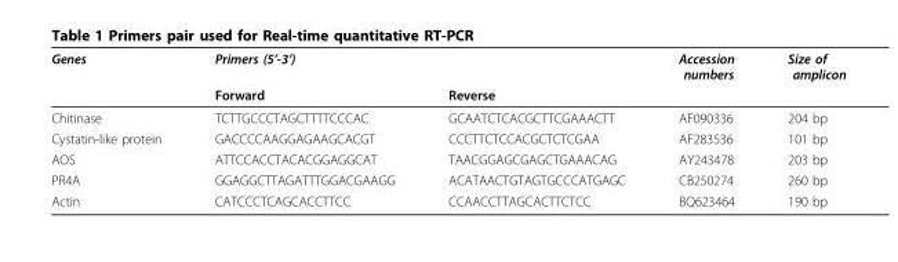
<table><thead><tr><td rowspan="2">Genes</td><td colspan="2">Primers (5’-3’)</td><td rowspan="2">Accession numbers</td><td rowspan="2">Size of amplicon</td></tr><tr><td>Forward</td><td>Reverse</td></tr></thead><tbody><tr><td>Chitinase</td><td>TCTTGCCCTAGCTTTTCCCAC</td><td>GCAATCTCACGCTTCGAAACTT</td><td>AF090336</td><td>204 bp</td></tr><tr><td>Cystatin-like protein</td><td>GACCCCAAGGAGAAGCACGT</td><td>CCCTTCTCCACGCTCTCGAA</td><td>AF283536</td><td>101 bp</td></tr><tr><td>AOS</td><td>ATTCCACCTACACGGAGGCAT</td><td>TAACGGAGCGAGCTGAAACAG</td><td>AY243478</td><td>203 bp</td></tr><tr><td>PR4A</td><td>GGAGGCTTAGATTTGGACGAAGG</td><td>ACATAACTGTAGTGCCCATGAGC</td><td>CB250274</td><td>260 bp</td></tr><tr><td>Actin</td><td>CATCCCTCAGCACCTTCC</td><td>CCAACCTTAGCACTTCTCC</td><td>BQ623464</td><td>190 bp</td></tr></tbody></table>